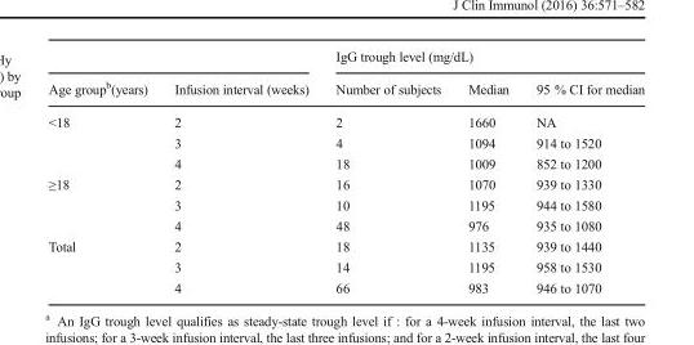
<table><thead><tr><td rowspan="2">Age group<sup>b</sup>(years)</td><td rowspan="2">Infusion interval (weeks)</td><td colspan="3">IgG trough level (mg/dL)</td></tr><tr><td>Number of subjects</td><td>Median</td><td>95 % CI for median</td></tr></thead><tbody><tr><td rowspan="3">&lt;18</td><td>2</td><td>2</td><td>1660</td><td>NA</td></tr><tr><td>3</td><td>4</td><td>1094</td><td>914 to 1520</td></tr><tr><td>4</td><td>18</td><td>1009</td><td>852 to 1200</td></tr><tr><td rowspan="3">≥18</td><td>2</td><td>16</td><td>1070</td><td>939 to 1330</td></tr><tr><td>3</td><td>10</td><td>1195</td><td>944 to 1580</td></tr><tr><td>4</td><td>48</td><td>976</td><td>935 to 1080</td></tr><tr><td rowspan="3">Total</td><td>2</td><td>18</td><td>1135</td><td>939 to 1440</td></tr><tr><td>3</td><td>14</td><td>1195</td><td>958 to 1530</td></tr><tr><td>4</td><td>66</td><td>983</td><td>946 to 1070</td></tr></tbody></table>